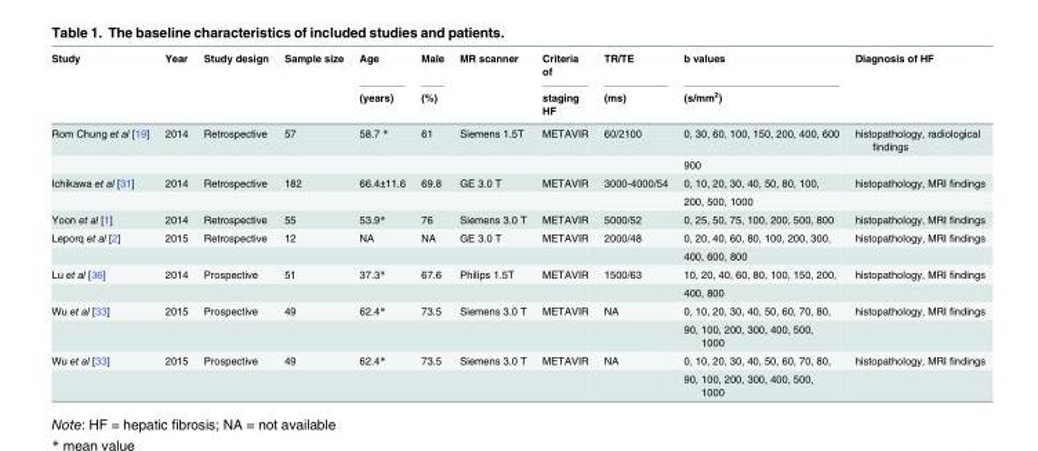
<table><thead><tr><td rowspan="2">Study</td><td rowspan="2">Year</td><td rowspan="2">Study design</td><td rowspan="2">Sample size</td><td rowspan="2">Age (years)</td><td rowspan="2">Male (%)</td><td rowspan="2">MR scanner</td><td rowspan="2">Criteria of staging HF</td><td rowspan="2">TR/TE (ms)</td><td rowspan="2">b values (s/mm<sup>2</sup>)</td><td rowspan="2">Diagnosis of HF</td></tr><tr></tr></thead><tbody><tr><td rowspan="2">Rom Chung et al [19]</td><td>2014</td><td>Retrospective</td><td>57</td><td>58.7 *</td><td>61</td><td>Siemens 1.5T</td><td>METAVIR</td><td>60/2100</td><td>0, 30, 60, 100, 150, 200, 400, 600</td><td>histopathology, radiological findings</td></tr><tr><td></td><td></td><td></td><td></td><td></td><td></td><td></td><td></td><td>900</td><td></td></tr><tr><td rowspan="2">Ichikawa et al [31]</td><td>2014</td><td>Retrospective</td><td>182</td><td>66.4±11.6</td><td>69.8</td><td>GE 3.0 T</td><td>METAVIR</td><td>3000-4000/54</td><td>0, 10, 20, 30, 40, 50, 80, 100,</td><td>histopathology, MRI findings</td></tr><tr><td></td><td></td><td></td><td></td><td></td><td></td><td></td><td></td><td>200, 500, 1000</td><td></td></tr><tr><td>Yoon et al [1]</td><td>2014</td><td>Retrospective</td><td>55</td><td>53.9*</td><td>76</td><td>Siemens 3.0 T</td><td>METAVIR</td><td>5000/52</td><td>0, 25, 50, 75, 100, 200, 500, 800</td><td>histopathology, MRI findings</td></tr><tr><td rowspan="2">Leporq et al [2]</td><td>2015</td><td>Retrospective</td><td>12</td><td>NA</td><td>NA</td><td>GE 3.0 T</td><td>METAVIR</td><td>2000/48</td><td>0, 20, 40, 60, 80, 100, 200, 300,</td><td>histopathology, MRI findings</td></tr><tr><td></td><td></td><td></td><td></td><td></td><td></td><td></td><td></td><td>400, 600, 800</td><td></td></tr><tr><td rowspan="2">Lu et al [36]</td><td>2014</td><td>Prospective</td><td>51</td><td>37.3*</td><td>67.6</td><td>Philips 1.5T</td><td>METAVIR</td><td>1500/63</td><td>10, 20, 40, 60, 80, 100, 150, 200,</td><td>histopathology, MRI findings</td></tr><tr><td></td><td></td><td></td><td></td><td></td><td></td><td></td><td></td><td>400, 800</td><td></td></tr><tr><td rowspan="2">Wu et al [33]</td><td>2015</td><td>Prospective</td><td>49</td><td>62.4*</td><td>73.5</td><td>Siemens 3.0 T</td><td>METAVIR</td><td>NA</td><td>0, 10, 20, 30, 40, 50, 60, 70, 80,</td><td>histopathology, MRI findings</td></tr><tr><td></td><td></td><td></td><td></td><td></td><td></td><td></td><td></td><td>90, 100, 200, 300, 400, 500, 1000</td><td></td></tr><tr><td rowspan="2">Wu et al [33]</td><td>2015</td><td>Prospective</td><td>49</td><td>62.4*</td><td>73.5</td><td>Siemens 3.0 T</td><td>METAVIR</td><td>NA</td><td>0, 10, 20, 30, 40, 50, 60, 70, 80,</td><td>histopathology, MRI findings</td></tr><tr><td></td><td></td><td></td><td></td><td></td><td></td><td></td><td></td><td>90, 100, 200, 300, 400, 500, 1000</td><td></td></tr></tbody></table>